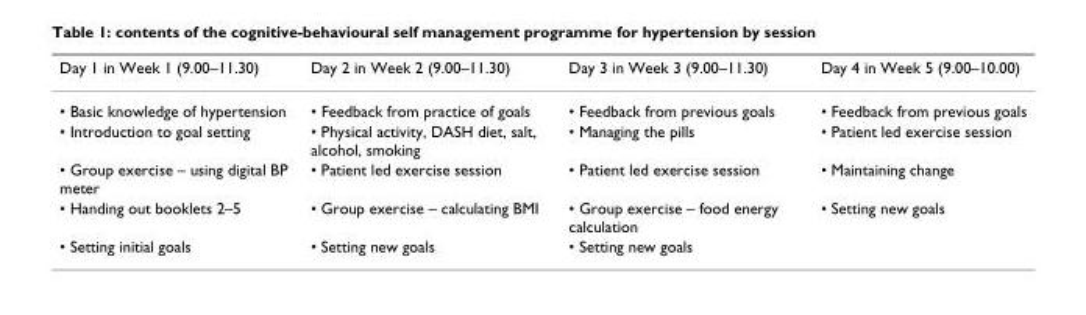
<table><thead><tr><td>Day 1 in Week 1 (9.00–11.30)</td><td>Day 2 in Week 2 (9.00–11.30)</td><td>Day 3 in Week 3 (9.00–11.30)</td><td>Day 4 in Week 5 (9.00–10.00)</td></tr></thead><tbody><tr><td>• Basic knowledge of hypertension</td><td>• Feedback from practice of goals</td><td>• Feedback from previous goals</td><td>• Feedback from previous goals</td></tr><tr><td>• Introduction to goal setting</td><td>• Physical activity, DASH diet, salt, alcohol, smoking</td><td>• Managing the pills</td><td>• Patient led exercise session</td></tr><tr><td>• Group exercise – using digital BP meter</td><td>• Patient led exercise session</td><td>• Patient led exercise session</td><td>• Maintaining change</td></tr><tr><td>• Handing out booklets 2–5</td><td>• Group exercise – calculating BMI</td><td>• Group exercise – food energy calculation</td><td>• Setting new goals</td></tr><tr><td>• Setting initial goals</td><td>• Setting new goals</td><td>• Setting new goals</td><td></td></tr></tbody></table>